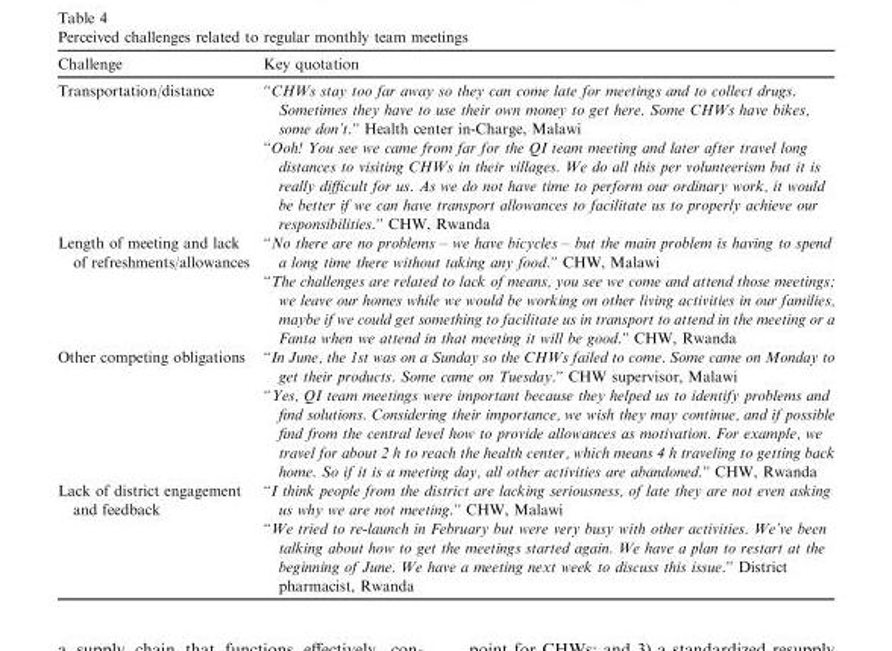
<table><thead><tr><td>Challenge</td><td>Key quotation</td></tr></thead><tbody><tr><td rowspan="2">Transportation/distance</td><td>“CHWs stay too far away so they can come late for meetings and to collect drugs. Sometimes they have to use their own money to get here. Some CHWs have bikes, some don’t.” Health center in-Charge, Malawi</td></tr><tr><td>“Ooh! You see we came from far for the QI team meeting and later after travel long distances to visiting CHWs in their villages. We do all this per volunteerism but it is really difficult for us. As we do not have time to perform our ordinary work, it would be better if we can have transport allowances to facilitate us to properly achieve our responsibilities.” CHW, Rwanda</td></tr><tr><td rowspan="2">Length of meeting and lack of refreshments/allowances</td><td>“No there are no problems – we have bicycles – but the main problem is having to spend a long time there without taking any food.” CHW, Malawi</td></tr><tr><td>“The challenges are related to lack of means, you see we come and attend those meetings; we leave our homes while we would be working on other living activities in our families, maybe if we could get something to facilitate us in transport to attend in the meeting or a Fanta when we attend in that meeting it will be good.” CHW, Rwanda</td></tr><tr><td rowspan="2">Other competing obligations</td><td>“In June, the 1st was on a Sunday so the CHWs failed to come. Some came on Monday to get their products. Some came on Tuesday.” CHW supervisor, Malawi</td></tr><tr><td>“Yes, QI team meetings were important because they helped us to identify problems and find solutions. Considering their importance, we wish they may continue, and if possible find from the central level how to provide allowances as motivation. For example, we travel for about 2 h to reach the health center, which means 4 h traveling to getting back home. So if it is a meeting day, all other activities are abandoned.” CHW, Rwanda</td></tr><tr><td rowspan="2">Lack of district engagement and feedback</td><td>“I think people from the district are lacking seriousness, of late they are not even asking us why we are not meeting.” CHW, Malawi</td></tr><tr><td>“We tried to re-launch in February but were very busy with other activities. We’ve been talking about how to get the meetings started again. We have a plan to restart at the beginning of June. We have a meeting next week to discuss this issue.” District pharmacist, Rwanda</td></tr></tbody></table>